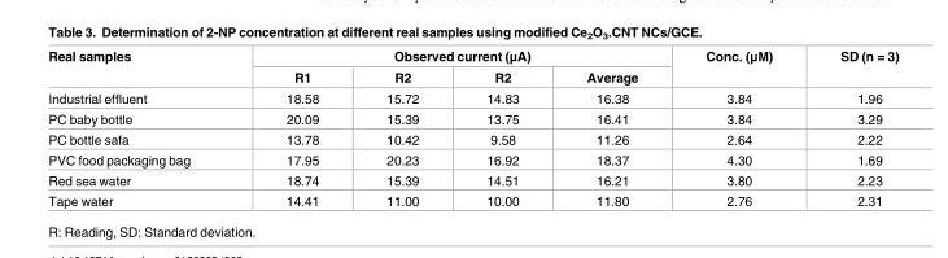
<table><thead><tr><td rowspan="2">Real samples</td><td colspan="4">Observed current (μA)</td><td rowspan="2">Conc. (μM)</td><td rowspan="2">SD (n = 3)</td></tr><tr><td>R1</td><td>R2</td><td>R2</td><td>Average</td></tr></thead><tbody><tr><td>Industrial effluent</td><td>18.58</td><td>15.72</td><td>14.83</td><td>16.38</td><td>3.84</td><td>1.96</td></tr><tr><td>PC baby bottle</td><td>20.09</td><td>15.39</td><td>13.75</td><td>16.41</td><td>3.84</td><td>3.29</td></tr><tr><td>PC bottle safa</td><td>13.78</td><td>10.42</td><td>9.58</td><td>11.26</td><td>2.64</td><td>2.22</td></tr><tr><td>PVC food packaging bag</td><td>17.95</td><td>20.23</td><td>16.92</td><td>18.37</td><td>4.30</td><td>1.69</td></tr><tr><td>Red sea water</td><td>18.74</td><td>15.39</td><td>14.51</td><td>16.21</td><td>3.80</td><td>2.23</td></tr><tr><td>Tape water</td><td>14.41</td><td>11.00</td><td>10.00</td><td>11.80</td><td>2.76</td><td>2.31</td></tr></tbody></table>